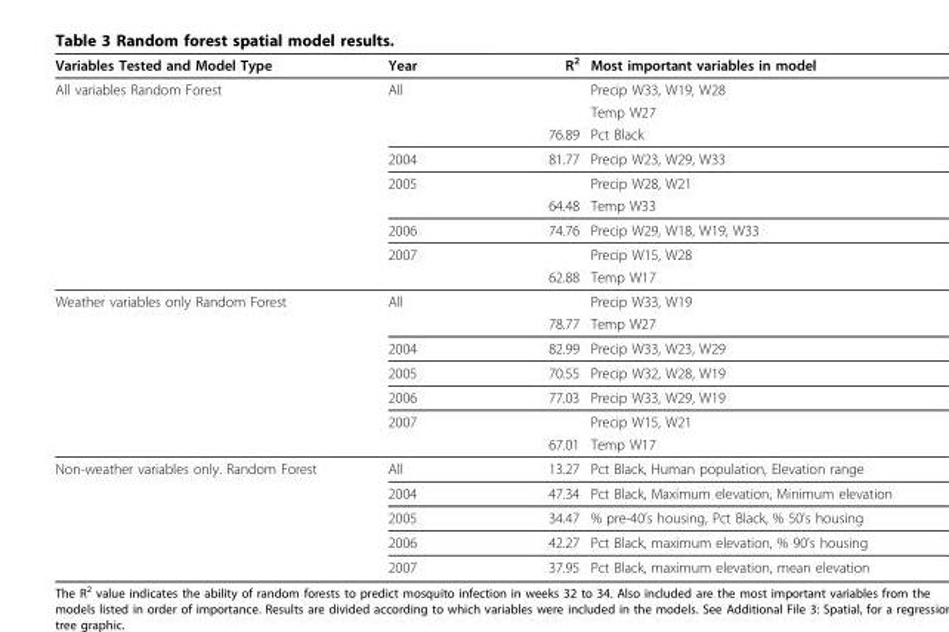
<table><thead><tr><td>Variables Tested and Model Type</td><td>Year</td><td>R<sup>2</sup></td><td>Most important variables in model</td></tr></thead><tbody><tr><td rowspan="9">All variables Random Forest</td><td>All</td><td></td><td>Precip W33, W19, W28</td></tr><tr><td></td><td></td><td>Temp W27</td></tr><tr><td></td><td>76.89</td><td>Pct Black</td></tr><tr><td>2004</td><td>81.77</td><td>Precip W23, W29, W33</td></tr><tr><td>2005</td><td></td><td>Precip W28, W21</td></tr><tr><td></td><td>64.48</td><td>Temp W33</td></tr><tr><td>2006</td><td>74.76</td><td>Precip W29, W18, W19, W33</td></tr><tr><td>2007</td><td></td><td>Precip W15, W28</td></tr><tr><td></td><td>62.88</td><td>Temp W17</td></tr><tr><td rowspan="7">Weather variables only Random Forest</td><td>All</td><td></td><td>Precip W33, W19</td></tr><tr><td></td><td>78.77</td><td>Temp W27</td></tr><tr><td>2004</td><td>82.99</td><td>Precip W33, W23, W29</td></tr><tr><td>2005</td><td>70.55</td><td>Precip W32, W28, W19</td></tr><tr><td>2006</td><td>77.03</td><td>Precip W33, W29, W19</td></tr><tr><td>2007</td><td></td><td>Precip W15, W21</td></tr><tr><td></td><td>67.01</td><td>Temp W17</td></tr><tr><td rowspan="5">Non-weather variables only. Random Forest</td><td>All</td><td>13.27</td><td>Pct Black, Human population, Elevation range</td></tr><tr><td>2004</td><td>47.34</td><td>Pct Black, Maximum elevation, Minimum elevation</td></tr><tr><td>2005</td><td>34.47</td><td>% pre-40’s housing, Pct Black, % 50’s housing</td></tr><tr><td>2006</td><td>42.27</td><td>Pct Black, maximum elevation, % 90’s housing</td></tr><tr><td>2007</td><td>37.95</td><td>Pct Black, maximum elevation, mean elevation</td></tr></tbody></table>